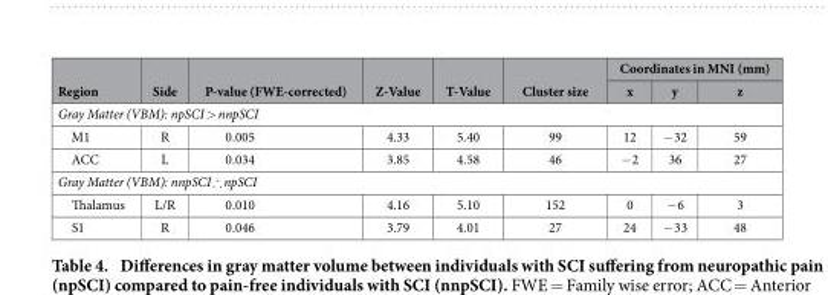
<table><thead><tr><td rowspan="2">Region</td><td rowspan="2">Side</td><td rowspan="2">P-value (FWE-corrected)</td><td rowspan="2">Z-Value</td><td rowspan="2">T-Value</td><td rowspan="2">Cluster size</td><td colspan="3">Coordinates in MNI (mm)</td></tr><tr><td>x</td><td>y</td><td>z</td></tr></thead><tbody><tr><td colspan="9">Gray Matter (VBM): npSCI &gt; nnpSCI</td></tr><tr><td>M1</td><td>R</td><td>0.005</td><td>4.33</td><td>5.40</td><td>99</td><td>12</td><td>− 32</td><td>59</td></tr><tr><td>ACC</td><td>L</td><td>0.034</td><td>3.85</td><td>4.58</td><td>46</td><td>− 2</td><td>36</td><td>27</td></tr><tr><td colspan="9">Gray Matter (VBM): nnpSCI \ npSCI</td></tr><tr><td>Thalamus</td><td>L/R</td><td>0.010</td><td>4.16</td><td>5.10</td><td>152</td><td>0</td><td>− 6</td><td>3</td></tr><tr><td>S1</td><td>R</td><td>0.046</td><td>3.79</td><td>4.01</td><td>27</td><td>24</td><td>− 33</td><td>48</td></tr></tbody></table>